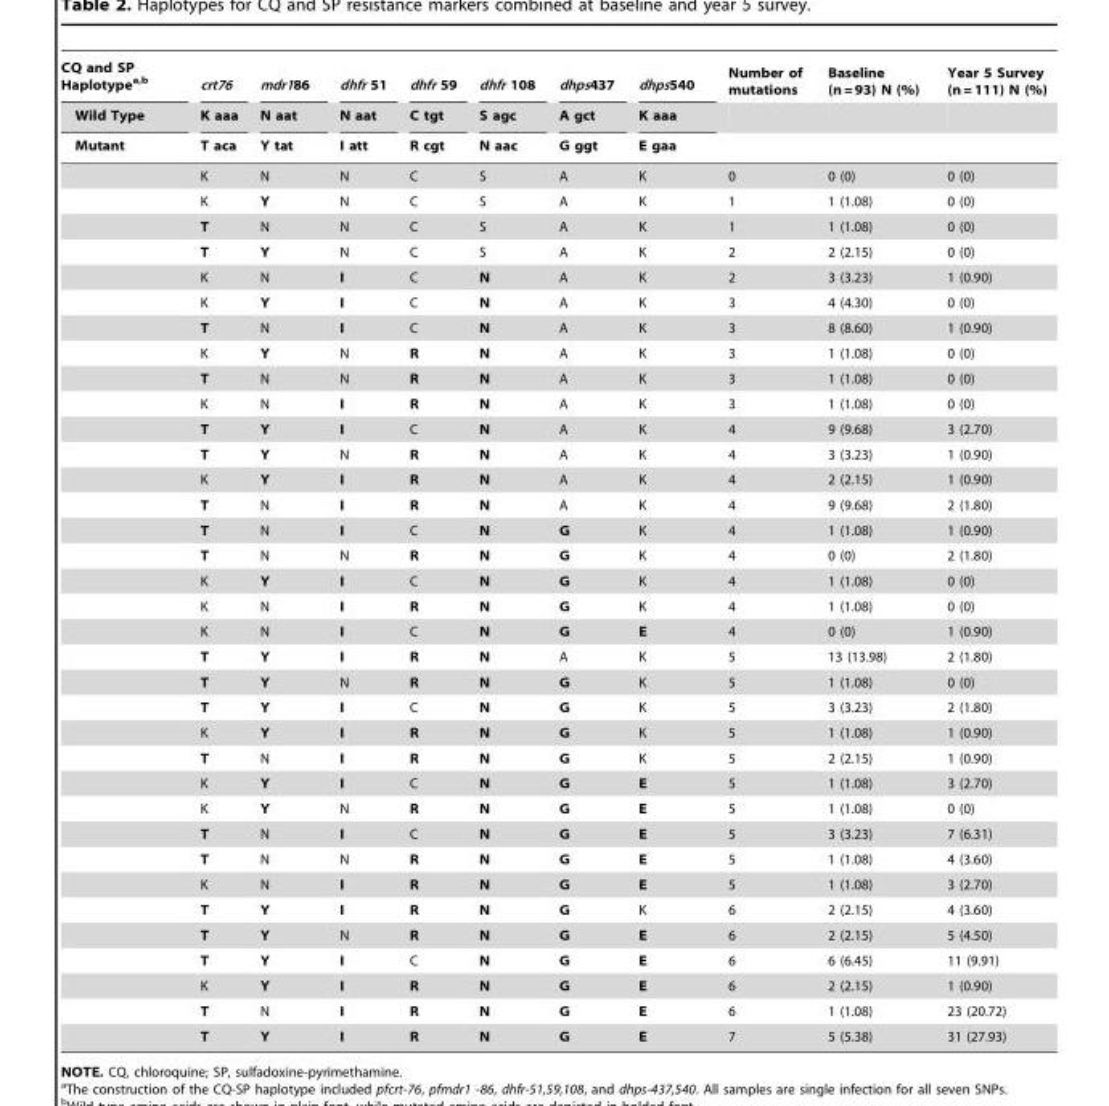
<table><thead><tr><td rowspan="3">CQ and SP Haplotype<sup>a,</sup>b Wild Type Mutant</td><td rowspan="3">crt76 K aaa T aca</td><td rowspan="3">mdr186 N aat Y tat</td><td rowspan="3">dhfr 51 N aat I att</td><td rowspan="3">dhfr 59 C tgt R cgt</td><td rowspan="3">dhfr 108 S agc N aac</td><td rowspan="3">dhps437 A gct G ggt</td><td rowspan="3">dhps540 K aaa E gaa</td><td rowspan="3">Number of mutations</td><td rowspan="3">Baseline (n = 93) N (%)</td><td rowspan="3">Year 5 Survey (n = 111) N (%)</td></tr><tr></tr><tr></tr></thead><tbody><tr><td></td><td>K</td><td>N</td><td>N</td><td>C</td><td>S</td><td>A</td><td>K</td><td>0</td><td>0 (0)</td><td>0 (0)</td></tr><tr><td></td><td>K</td><td>Y</td><td>N</td><td>C</td><td>S</td><td>A</td><td>K</td><td>1</td><td>1 (1.08)</td><td>0 (0)</td></tr><tr><td></td><td>T</td><td>N</td><td>N</td><td>C</td><td>S</td><td>A</td><td>K</td><td>1</td><td>1 (1.08)</td><td>0 (0)</td></tr><tr><td></td><td>T</td><td>Y</td><td>N</td><td>C</td><td>S</td><td>A</td><td>K</td><td>2</td><td>2 (2.15)</td><td>0 (0)</td></tr><tr><td></td><td>K</td><td>N</td><td>I</td><td>C</td><td>N</td><td>A</td><td>K</td><td>2</td><td>3 (3.23)</td><td>1 (0.90)</td></tr><tr><td></td><td>K</td><td>Y</td><td>I</td><td>C</td><td>N</td><td>A</td><td>K</td><td>3</td><td>4 (4.30)</td><td>0 (0)</td></tr><tr><td></td><td>T</td><td>N</td><td>I</td><td>C</td><td>N</td><td>A</td><td>K</td><td>3</td><td>8 (8.60)</td><td>1 (0.90)</td></tr><tr><td></td><td>K</td><td>Y</td><td>N</td><td>R</td><td>N</td><td>A</td><td>K</td><td>3</td><td>1 (1.08)</td><td>0 (0)</td></tr><tr><td></td><td>T</td><td>N</td><td>N</td><td>R</td><td>N</td><td>A</td><td>K</td><td>3</td><td>1 (1.08)</td><td>0 (0)</td></tr><tr><td></td><td>K</td><td>N</td><td>I</td><td>R</td><td>N</td><td>A</td><td>K</td><td>3</td><td>1 (1.08)</td><td>0 (0)</td></tr><tr><td></td><td>T</td><td>Y</td><td>I</td><td>C</td><td>N</td><td>A</td><td>K</td><td>4</td><td>9 (9.68)</td><td>3 (2.70)</td></tr><tr><td></td><td>T</td><td>Y</td><td>N</td><td>R</td><td>N</td><td>A</td><td>K</td><td>4</td><td>3 (3.23)</td><td>1 (0.90)</td></tr><tr><td></td><td>K</td><td>Y</td><td>I</td><td>R</td><td>N</td><td>A</td><td>K</td><td>4</td><td>2 (2.15)</td><td>1 (0.90)</td></tr><tr><td></td><td>T</td><td>N</td><td>I</td><td>R</td><td>N</td><td>A</td><td>K</td><td>4</td><td>9 (9.68)</td><td>2 (1.80)</td></tr><tr><td></td><td>T</td><td>N</td><td>I</td><td>C</td><td>N</td><td>G</td><td>K</td><td>4</td><td>1 (1.08)</td><td>1 (0.90)</td></tr><tr><td></td><td>T</td><td>N</td><td>N</td><td>R</td><td>N</td><td>G</td><td>K</td><td>4</td><td>0 (0)</td><td>2 (1.80)</td></tr><tr><td></td><td>K</td><td>Y</td><td>I</td><td>C</td><td>N</td><td>G</td><td>K</td><td>4</td><td>1 (1.08)</td><td>0 (0)</td></tr><tr><td></td><td>K</td><td>N</td><td>I</td><td>R</td><td>N</td><td>G</td><td>K</td><td>4</td><td>1 (1.08)</td><td>0 (0)</td></tr><tr><td></td><td>K</td><td>N</td><td>I</td><td>C</td><td>N</td><td>G</td><td>E</td><td>4</td><td>0 (0)</td><td>1 (0.90)</td></tr><tr><td></td><td>T</td><td>Y</td><td>I</td><td>R</td><td>N</td><td>A</td><td>K</td><td>5</td><td>13 (13.98)</td><td>2 (1.80)</td></tr><tr><td></td><td>T</td><td>Y</td><td>N</td><td>R</td><td>N</td><td>G</td><td>K</td><td>5</td><td>1 (1.08)</td><td>0 (0)</td></tr><tr><td></td><td>T</td><td>Y</td><td>I</td><td>C</td><td>N</td><td>G</td><td>K</td><td>5</td><td>3 (3.23)</td><td>2 (1.80)</td></tr><tr><td></td><td>K</td><td>Y</td><td>I</td><td>R</td><td>N</td><td>G</td><td>K</td><td>5</td><td>1 (1.08)</td><td>1 (0.90)</td></tr><tr><td></td><td>T</td><td>N</td><td>I</td><td>R</td><td>N</td><td>G</td><td>K</td><td>5</td><td>2 (2.15)</td><td>1 (0.90)</td></tr><tr><td></td><td>K</td><td>Y</td><td>I</td><td>C</td><td>N</td><td>G</td><td>E</td><td>5</td><td>1 (1.08)</td><td>3 (2.70)</td></tr><tr><td></td><td>K</td><td>Y</td><td>N</td><td>R</td><td>N</td><td>G</td><td>E</td><td>5</td><td>1 (1.08)</td><td>0 (0)</td></tr><tr><td></td><td>T</td><td>N</td><td>I</td><td>C</td><td>N</td><td>G</td><td>E</td><td>5</td><td>3 (3.23)</td><td>7 (6.31)</td></tr><tr><td></td><td>T</td><td>N</td><td>N</td><td>R</td><td>N</td><td>G</td><td>E</td><td>5</td><td>1 (1.08)</td><td>4 (3.60)</td></tr><tr><td></td><td>K</td><td>N</td><td>I</td><td>R</td><td>N</td><td>G</td><td>E</td><td>5</td><td>1 (1.08)</td><td>3 (2.70)</td></tr><tr><td></td><td>T</td><td>Y</td><td>I</td><td>R</td><td>N</td><td>G</td><td>K</td><td>6</td><td>2 (2.15)</td><td>4 (3.60)</td></tr><tr><td></td><td>T</td><td>Y</td><td>N</td><td>R</td><td>N</td><td>G</td><td>E</td><td>6</td><td>2 (2.15)</td><td>5 (4.50)</td></tr><tr><td></td><td>T</td><td>Y</td><td>I</td><td>C</td><td>N</td><td>G</td><td>E</td><td>6</td><td>6 (6.45)</td><td>11 (9.91)</td></tr><tr><td></td><td>K</td><td>Y</td><td>I</td><td>R</td><td>N</td><td>G</td><td>E</td><td>6</td><td>2 (2.15)</td><td>1 (0.90)</td></tr><tr><td></td><td>T</td><td>N</td><td>I</td><td>R</td><td>N</td><td>G</td><td>E</td><td>6</td><td>1 (1.08)</td><td>23 (20.72)</td></tr><tr><td></td><td>T</td><td>Y</td><td>I</td><td>R</td><td>N</td><td>G</td><td>E</td><td>7</td><td>5 (5.38)</td><td>31 (27.93)</td></tr></tbody></table>